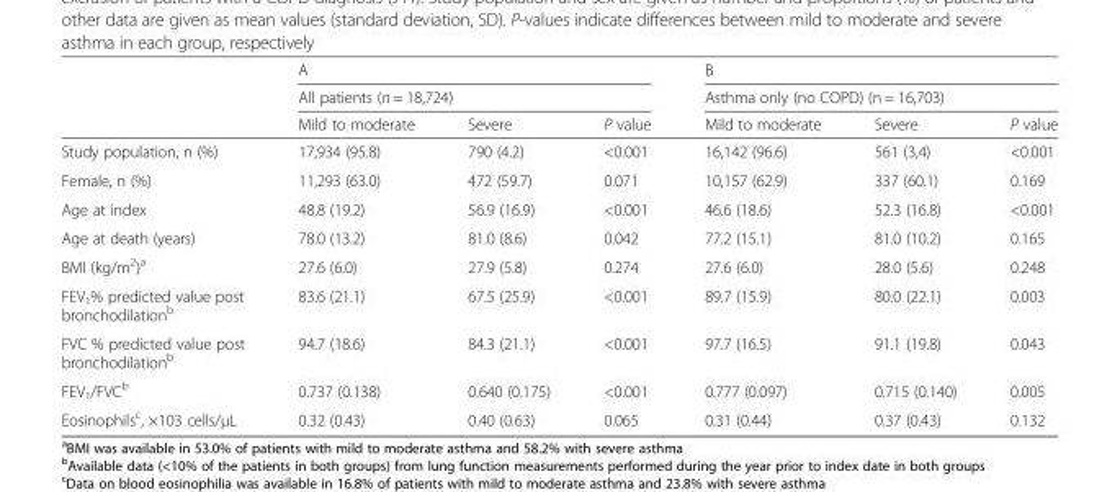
<table><thead><tr><td rowspan="3"></td><td rowspan="2" colspan="3">A All patients (n = 18,724)</td><td rowspan="2" colspan="3">B Asthma only (no COPD) (n = 16,703)</td></tr><tr></tr><tr><td>Mild to moderate</td><td>Severe</td><td>P value</td><td>Mild to moderate</td><td>Severe</td><td>P value</td></tr></thead><tbody><tr><td>Study population, n (%)</td><td>17,934 (95.8)</td><td>790 (4.2)</td><td>&lt;0.001</td><td>16,142 (96.6)</td><td>561 (3,4)</td><td>&lt;0.001</td></tr><tr><td>Female, n (%)</td><td>11,293 (63.0)</td><td>472 (59.7)</td><td>0.071</td><td>10,157 (62.9)</td><td>337 (60.1)</td><td>0.169</td></tr><tr><td>Age at index</td><td>48.8 (19.2)</td><td>56.9 (16.9)</td><td>&lt;0.001</td><td>46.6 (18.6)</td><td>52.3 (16.8)</td><td>&lt;0.001</td></tr><tr><td>Age at death (years)</td><td>78.0 (13.2)</td><td>81.0 (8.6)</td><td>0.042</td><td>77.2 (15.1)</td><td>81.0 (10.2)</td><td>0.165</td></tr><tr><td>BMI (kg/m<sup>2</sup>)<sup>a</sup></td><td>27.6 (6.0)</td><td>27.9 (5.8)</td><td>0.274</td><td>27.6 (6.0)</td><td>28.0 (5.6)</td><td>0.248</td></tr><tr><td>FEV<sub>1</sub>% predicted value post bronchodilation<sup>b</sup></td><td>83.6 (21.1)</td><td>67.5 (25.9)</td><td>&lt;0.001</td><td>89.7 (15.9)</td><td>80.0 (22.1)</td><td>0.003</td></tr><tr><td>FVC % predicted value post bronchodilation<sup>b</sup></td><td>94.7 (18.6)</td><td>84.3 (21.1)</td><td>&lt;0.001</td><td>97.7 (16.5)</td><td>91.1 (19.8)</td><td>0.043</td></tr><tr><td>FEV<sub>1</sub>/FVC<sup>b</sup></td><td>0.737 (0.138)</td><td>0.640 (0.175)</td><td>&lt;0.001</td><td>0.777 (0.097)</td><td>0.715 (0.140)</td><td>0.005</td></tr><tr><td>Eosinophils<sup>c</sup>, ×103 cells/μL</td><td>0.32 (0.43)</td><td>0.40 (0.63)</td><td>0.065</td><td>0.31 (0.44)</td><td>0.37 (0.43)</td><td>0.132</td></tr></tbody></table>